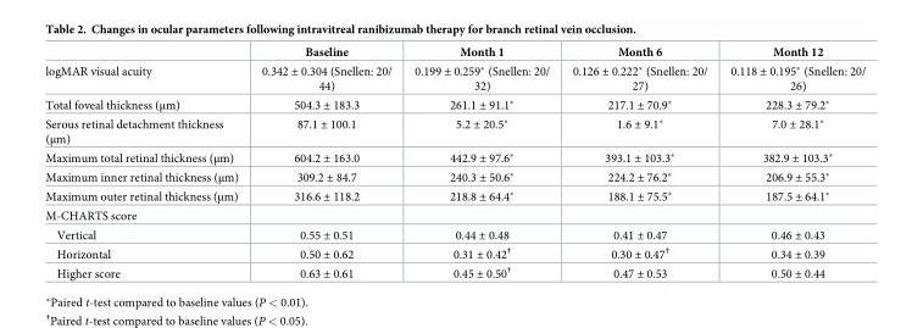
<table><thead><tr><td></td><td>Baseline</td><td>Month 1</td><td>Month 6</td><td>Month 12</td></tr></thead><tbody><tr><td>logMAR visual acuity</td><td>0.342 ± 0.304 (Snellen: 20/ 44)</td><td>0.199 ± 0.259* (Snellen: 20/ 32)</td><td>0.126 ± 0.222* (Snellen: 20/ 27)</td><td>0.118 ± 0.195* (Snellen: 20/ 26)</td></tr><tr><td>Total foveal thickness (μm)</td><td>504.3 ± 183.3</td><td>261.1 ± 91.1*</td><td>217.1 ± 70.9*</td><td>228.3 ± 79.2*</td></tr><tr><td>Serous retinal detachment thickness (μm)</td><td>87.1 ± 100.1</td><td>5.2 ± 20.5*</td><td>1.6 ± 9.1*</td><td>7.0 ± 28.1*</td></tr><tr><td>Maximum total retinal thickness (μm)</td><td>604.2 ± 163.0</td><td>442.9 ± 97.6*</td><td>393.1 ± 103.3*</td><td>382.9 ± 103.3*</td></tr><tr><td>Maximum inner retinal thickness (μm)</td><td>309.2 ± 84.7</td><td>240.3 ± 50.6*</td><td>224.2 ± 76.2*</td><td>206.9 ± 55.3*</td></tr><tr><td>Maximum outer retinal thickness (μm)</td><td>316.6 ± 118.2</td><td>218.8 ± 64.4*</td><td>188.1 ± 75.5*</td><td>187.5 ± 64.1*</td></tr><tr><td colspan="5">M-CHARTS score</td></tr><tr><td>Vertical</td><td>0.55 ± 0.51</td><td>0.44 ± 0.48</td><td>0.41 ± 0.47</td><td>0.46 ± 0.43</td></tr><tr><td>Horizontal</td><td>0.50 ± 0.62</td><td>0.31 ± 0.42<sup>†</sup></td><td>0.30 ± 0.47<sup>†</sup></td><td>0.34 ± 0.39</td></tr><tr><td>Higher score</td><td>0.63 ± 0.61</td><td>0.45 ± 0.50<sup>†</sup></td><td>0.47 ± 0.53</td><td>0.50 ± 0.44</td></tr></tbody></table>